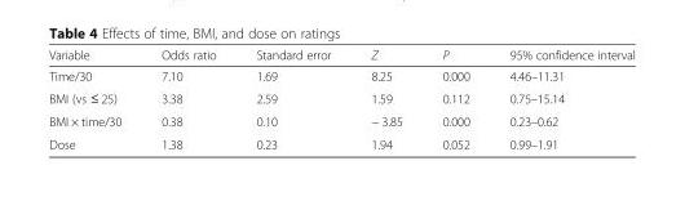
<table><thead><tr><td>Variable</td><td>Odds ratio</td><td>Standard error</td><td>Z</td><td>P</td><td>95% confidence interval</td></tr></thead><tbody><tr><td>Time/30</td><td>7.10</td><td>1.69</td><td>8.25</td><td>0.000</td><td>4.46–11.31</td></tr><tr><td>BMI (vs ≤ 25)</td><td>3.38</td><td>2.59</td><td>1.59</td><td>0.112</td><td>0.75–15.14</td></tr><tr><td>BMI × time/30</td><td>0.38</td><td>0.10</td><td>− 3.85</td><td>0.000</td><td>0.23–0.62</td></tr><tr><td>Dose</td><td>1.38</td><td>0.23</td><td>1.94</td><td>0.052</td><td>0.99–1.91</td></tr></tbody></table>